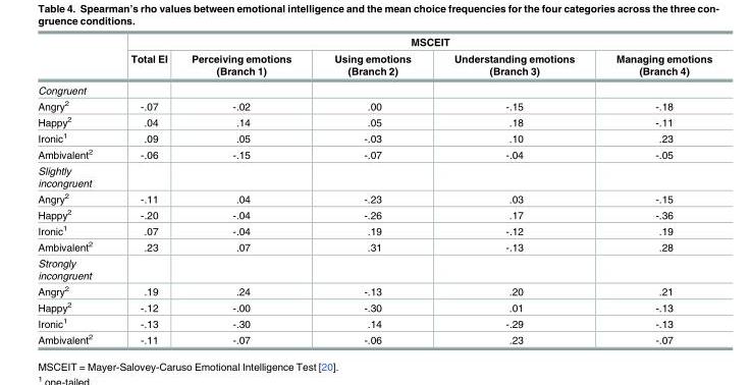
<table><thead><tr><td rowspan="2"></td><td colspan="5">MSCEIT</td></tr><tr><td>Total EI</td><td>Perceiving emotions (Branch 1)</td><td>Using emotions (Branch 2)</td><td>Understanding emotions (Branch 3)</td><td>Managing emotions (Branch 4)</td></tr></thead><tbody><tr><td colspan="6">Congruent</td></tr><tr><td>Angry<sup>2</sup></td><td>-.07</td><td>-.02</td><td>.00</td><td>-.15</td><td>-.18</td></tr><tr><td>Happy<sup>2</sup></td><td>.04</td><td>.14</td><td>.05</td><td>.18</td><td>-.11</td></tr><tr><td>Ironic<sup>1</sup></td><td>.09</td><td>.05</td><td>-.03</td><td>.10</td><td>.23</td></tr><tr><td>Ambivalent<sup>2</sup></td><td>-.06</td><td>-.15</td><td>-.07</td><td>-.04</td><td>-.05</td></tr><tr><td colspan="6">Slightly incongruent</td></tr><tr><td>Angry<sup>2</sup></td><td>-.11</td><td>.04</td><td>-.23</td><td>.03</td><td>-.15</td></tr><tr><td>Happy<sup>2</sup></td><td>-.20</td><td>-.04</td><td>-.26</td><td>.17</td><td>-.36</td></tr><tr><td>Ironic<sup>1</sup></td><td>.07</td><td>-.04</td><td>.19</td><td>-.12</td><td>.19</td></tr><tr><td>Ambivalent<sup>2</sup></td><td>.23</td><td>.07</td><td>.31</td><td>-.13</td><td>.28</td></tr><tr><td colspan="6">Strongly incongruent</td></tr><tr><td>Angry<sup>2</sup></td><td>.19</td><td>.24</td><td>-.13</td><td>.20</td><td>.21</td></tr><tr><td>Happy<sup>2</sup></td><td>-.12</td><td>-.00</td><td>-.30</td><td>.01</td><td>-.13</td></tr><tr><td>Ironic<sup>1</sup></td><td>-.13</td><td>-.30</td><td>.14</td><td>-.29</td><td>-.13</td></tr><tr><td>Ambivalent<sup>2</sup></td><td>-.11</td><td>-.07</td><td>-.06</td><td>.23</td><td>-.07</td></tr></tbody></table>